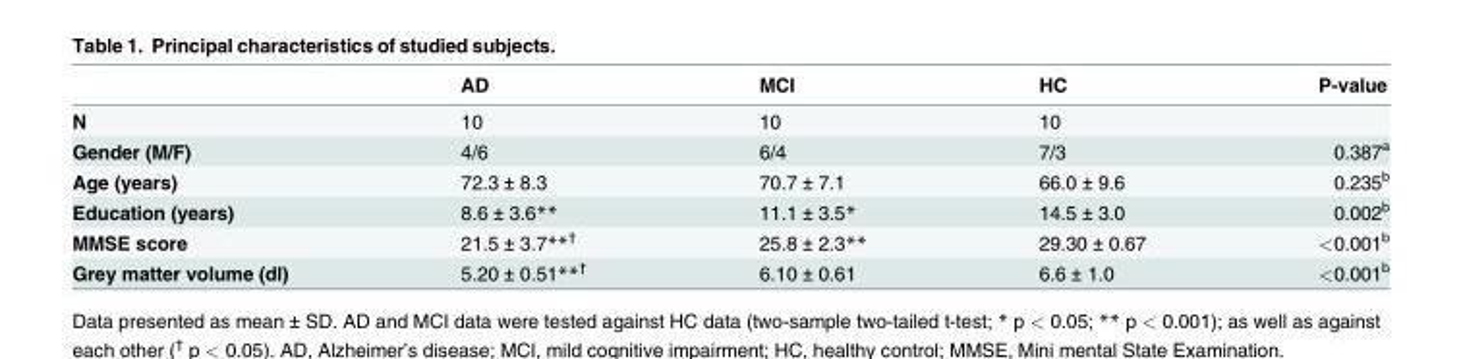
<table><thead><tr><td></td><td>AD</td><td>MCI</td><td>HC</td><td>P-value</td></tr></thead><tbody><tr><td>N</td><td>10</td><td>10</td><td>10</td><td></td></tr><tr><td>Gender (M/F)</td><td>4/6</td><td>6/4</td><td>7/3</td><td>0.387<sup>a</sup></td></tr><tr><td>Age (years)</td><td>72.3 ± 8.3</td><td>70.7 ± 7.1</td><td>66.0 ± 9.6</td><td>0.235<sup>b</sup></td></tr><tr><td>Education (years)</td><td>8.6 ± 3.6**</td><td>11.1 ± 3.5*</td><td>14.5 ± 3.0</td><td>0.002<sup>b</sup></td></tr><tr><td>MMSE score</td><td>21.5 ± 3.7**<sup>†</sup></td><td>25.8 ± 2.3**</td><td>29.30 ± 0.67</td><td>&lt;0.001<sup>b</sup></td></tr><tr><td>Grey matter volume (dl)</td><td>5.20 ± 0.51**<sup>†</sup></td><td>6.10 ± 0.61</td><td>6.6 ± 1.0</td><td>&lt;0.001<sup>b</sup></td></tr></tbody></table>